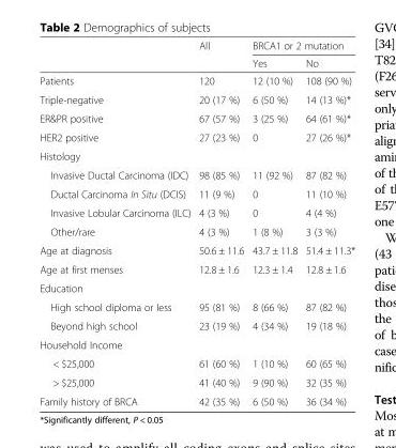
<table><thead><tr><td rowspan="2"></td><td rowspan="2">All</td><td colspan="2">BRCA1 or 2 mutation</td></tr><tr><td>Yes</td><td>No</td></tr></thead><tbody><tr><td>Patients</td><td>120</td><td>12 (10 %)</td><td>108 (90 %)</td></tr><tr><td>Triple-negative</td><td>20 (17 %)</td><td>6 (50 %)</td><td>14 (13 %)*</td></tr><tr><td>ER&amp;PR positive</td><td>67 (57 %)</td><td>3 (25 %)</td><td>64 (61 %)*</td></tr><tr><td>HER2 positive</td><td>27 (23 %)</td><td>0</td><td>27 (26 %)*</td></tr><tr><td colspan="4">Histology</td></tr><tr><td>Invasive Ductal Carcinoma (IDC)</td><td>98 (85 %)</td><td>11 (92 %)</td><td>87 (82 %)</td></tr><tr><td>Ductal Carcinoma In Situ (DCIS)</td><td>11 (9 %)</td><td>0</td><td>11 (10 %)</td></tr><tr><td>Invasive Lobular Carcinoma (ILC)</td><td>4 (3 %)</td><td>0</td><td>4 (4 %)</td></tr><tr><td>Other/rare</td><td>4 (3 %)</td><td>1 (8 %)</td><td>3 (3 %)</td></tr><tr><td>Age at diagnosis</td><td>50.6 ± 11.6</td><td>43.7 ± 11.8</td><td>51.4 ± 11.3*</td></tr><tr><td>Age at first menses</td><td>12.8 ± 1.6</td><td>12.3 ± 1.4</td><td>12.8 ± 1.6</td></tr><tr><td colspan="4">Education</td></tr><tr><td>High school diploma or less</td><td>95 (81 %)</td><td>8 (66 %)</td><td>87 (82 %)</td></tr><tr><td>Beyond high school</td><td>23 (19 %)</td><td>4 (34 %)</td><td>19 (18 %)</td></tr><tr><td colspan="4">Household Income</td></tr><tr><td>&lt; $25,000</td><td>61 (60 %)</td><td>1 (10 %)</td><td>60 (65 %)</td></tr><tr><td>&gt; $25,000</td><td>41 (40 %)</td><td>9 (90 %)</td><td>32 (35 %)</td></tr><tr><td>Family history of BRCA</td><td>42 (35 %)</td><td>6 (50 %)</td><td>36 (34 %)</td></tr></tbody></table>